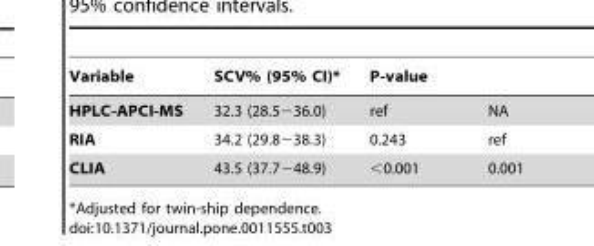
<table><thead><tr><td rowspan="2">Variable HPLC-APCI-MS</td><td rowspan="2">SCV% (95% CI)* 32.3 (28.5−36.0)</td><td colspan="2">P-value</td></tr><tr><td>ref</td><td>NA</td></tr></thead><tbody><tr><td>RIA</td><td>34.2 (29.8−38.3)</td><td>0.243</td><td>ref</td></tr><tr><td>CLIA</td><td>43.5 (37.7−48.9)</td><td>&lt;0.001</td><td>0.001</td></tr></tbody></table>